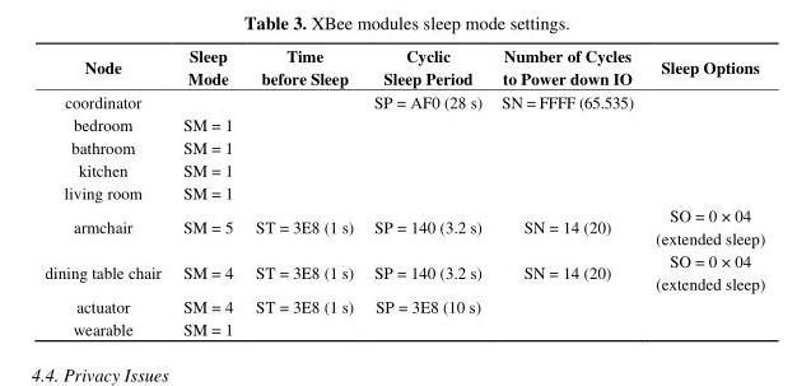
<table><thead><tr><td>Node</td><td>Sleep Mode</td><td>Time before Sleep</td><td>Cyclic Sleep Period</td><td>Number of Cycles to Power down IO</td><td>Sleep Options</td></tr></thead><tbody><tr><td>coordinator</td><td></td><td></td><td>SP = AF0 (28 s)</td><td>SN = FFFF (65.535)</td><td></td></tr><tr><td>bedroom</td><td>SM = 1</td><td></td><td></td><td></td><td></td></tr><tr><td>bathroom</td><td>SM = 1</td><td></td><td></td><td></td><td></td></tr><tr><td>kitchen</td><td>SM = 1</td><td></td><td></td><td></td><td></td></tr><tr><td>living room</td><td>SM = 1</td><td></td><td></td><td></td><td></td></tr><tr><td>armchair</td><td>SM = 5</td><td>ST = 3E8 (1 s)</td><td>SP = 140 (3.2 s)</td><td>SN = 14 (20)</td><td>SO = 0 × 04 (extended sleep)</td></tr><tr><td>dining table chair</td><td>SM = 4</td><td>ST = 3E8 (1 s)</td><td>SP = 140 (3.2 s)</td><td>SN = 14 (20)</td><td>SO = 0 × 04 (extended sleep)</td></tr><tr><td>actuator</td><td>SM = 4</td><td>ST = 3E8 (1 s)</td><td>SP = 3E8 (10 s)</td><td></td><td></td></tr><tr><td>wearable</td><td>SM = 1</td><td></td><td></td><td></td><td></td></tr></tbody></table>